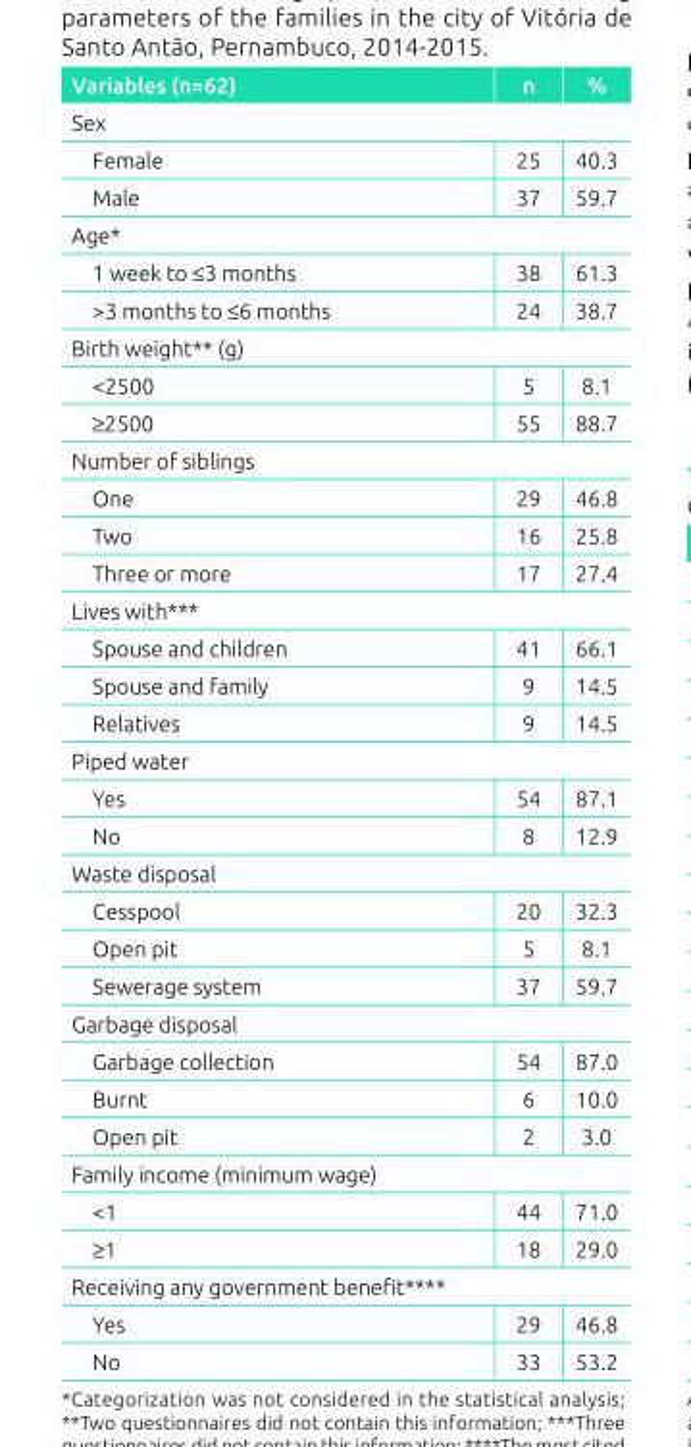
<table><thead><tr><td>Variables (n=62)</td><td>n</td><td>%</td></tr></thead><tbody><tr><td colspan="3">Sex</td></tr><tr><td>Female</td><td>25</td><td>40.3</td></tr><tr><td>Male</td><td>37</td><td>59.7</td></tr><tr><td colspan="3">Age*</td></tr><tr><td>1 week to ≤3 months</td><td>38</td><td>61.3</td></tr><tr><td>&gt;3 months to ≤6 months</td><td>24</td><td>38.7</td></tr><tr><td colspan="3">Birth weight** (g)</td></tr><tr><td>&lt;2500</td><td>5</td><td>8.1</td></tr><tr><td>≥2500</td><td>55</td><td>88.7</td></tr><tr><td colspan="3">Number of siblings</td></tr><tr><td>One</td><td>29</td><td>46.8</td></tr><tr><td>Two</td><td>16</td><td>25.8</td></tr><tr><td>Three or more</td><td>17</td><td>27.4</td></tr><tr><td colspan="3">Lives with***</td></tr><tr><td>Spouse and children</td><td>41</td><td>66.1</td></tr><tr><td>Spouse and family</td><td>9</td><td>14.5</td></tr><tr><td>Relatives</td><td>9</td><td>14.5</td></tr><tr><td colspan="3">Piped water</td></tr><tr><td>Yes</td><td>54</td><td>87.1</td></tr><tr><td>No</td><td>8</td><td>12.9</td></tr><tr><td colspan="3">Waste disposal</td></tr><tr><td>Cesspool</td><td>20</td><td>32.3</td></tr><tr><td>Open pit</td><td>5</td><td>8.1</td></tr><tr><td>Sewerage system</td><td>37</td><td>59.7</td></tr><tr><td colspan="3">Garbage disposal</td></tr><tr><td>Garbage collection</td><td>54</td><td>87.0</td></tr><tr><td>Burnt</td><td>6</td><td>10.0</td></tr><tr><td>Open pit</td><td>2</td><td>3.0</td></tr><tr><td colspan="3">Family income (minimum wage)</td></tr><tr><td>&lt;1</td><td>44</td><td>71.0</td></tr><tr><td>≥1</td><td>18</td><td>29.0</td></tr><tr><td colspan="3">Receiving any government benefit****</td></tr><tr><td>Yes</td><td>29</td><td>46.8</td></tr><tr><td>No</td><td>33</td><td>53.2</td></tr></tbody></table>